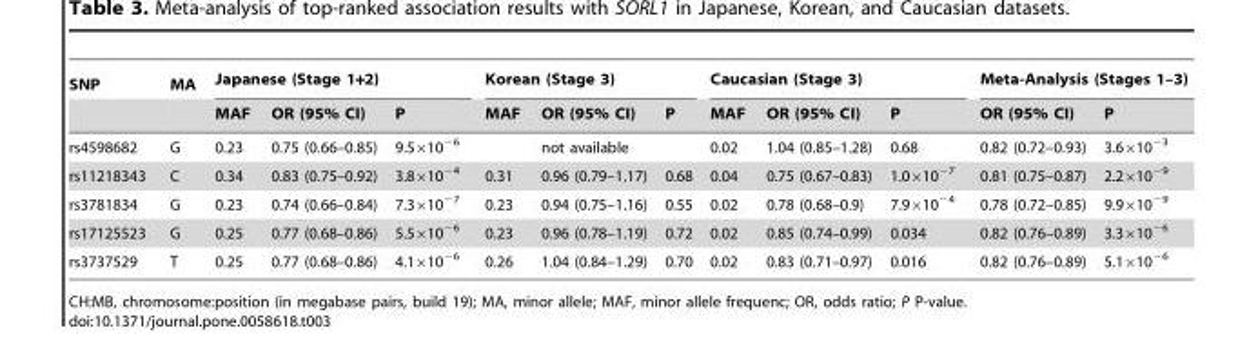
<table><thead><tr><td rowspan="2">SNP</td><td rowspan="2">MA</td><td colspan="3">Japanese (Stage 1+2)</td><td colspan="3">Korean (Stage 3)</td><td colspan="3">Caucasian (Stage 3)</td><td colspan="2">Meta-Analysis (Stages 1–3)</td></tr><tr><td>MAF</td><td>OR (95% CI)</td><td>P</td><td>MAF</td><td>OR (95% CI)</td><td>P</td><td>MAF</td><td>OR (95% CI)</td><td>P</td><td>OR (95% CI)</td><td>P</td></tr></thead><tbody><tr><td>rs4598682</td><td>G</td><td>0.23</td><td>0.75 (0.66–0.85)</td><td>9.5×10<sup>−6</sup></td><td></td><td>not available</td><td></td><td>0.02</td><td>1.04 (0.85–1.28)</td><td>0.68</td><td>0.82 (0.72–0.93)</td><td>3.6×10<sup>−3</sup></td></tr><tr><td>rs11218343</td><td>C</td><td>0.34</td><td>0.83 (0.75–0.92)</td><td>3.8×10<sup>−4</sup></td><td>0.31</td><td>0.96 (0.79–1.17)</td><td>0.68</td><td>0.04</td><td>0.75 (0.67–0.83)</td><td>1.0×10<sup>−7</sup></td><td>0.81 (0.75–0.87)</td><td>2.2×10<sup>−9</sup></td></tr><tr><td>rs3781834</td><td>G</td><td>0.23</td><td>0.74 (0.66–0.84)</td><td>7.3×10<sup>−7</sup></td><td>0.23</td><td>0.94 (0.75–1.16)</td><td>0.55</td><td>0.02</td><td>0.78 (0.68–0.9)</td><td>7.9×10<sup>−4</sup></td><td>0.78 (0.72–0.85)</td><td>9.9×10<sup>−9</sup></td></tr><tr><td>rs17125523</td><td>G</td><td>0.25</td><td>0.77 (0.68–0.86)</td><td>5.5×10<sup>−6</sup></td><td>0.23</td><td>0.96 (0.78–1.19)</td><td>0.72</td><td>0.02</td><td>0.85 (0.74–0.99)</td><td>0.034</td><td>0.82 (0.76–0.89)</td><td>3.3×10<sup>−6</sup></td></tr><tr><td>rs3737529</td><td>T</td><td>0.25</td><td>0.77 (0.68–0.86)</td><td>4.1×10<sup>−6</sup></td><td>0.26</td><td>1.04 (0.84–1.29)</td><td>0.70</td><td>0.02</td><td>0.83 (0.71–0.97)</td><td>0.016</td><td>0.82 (0.76–0.89)</td><td>5.1×10<sup>−6</sup></td></tr></tbody></table>